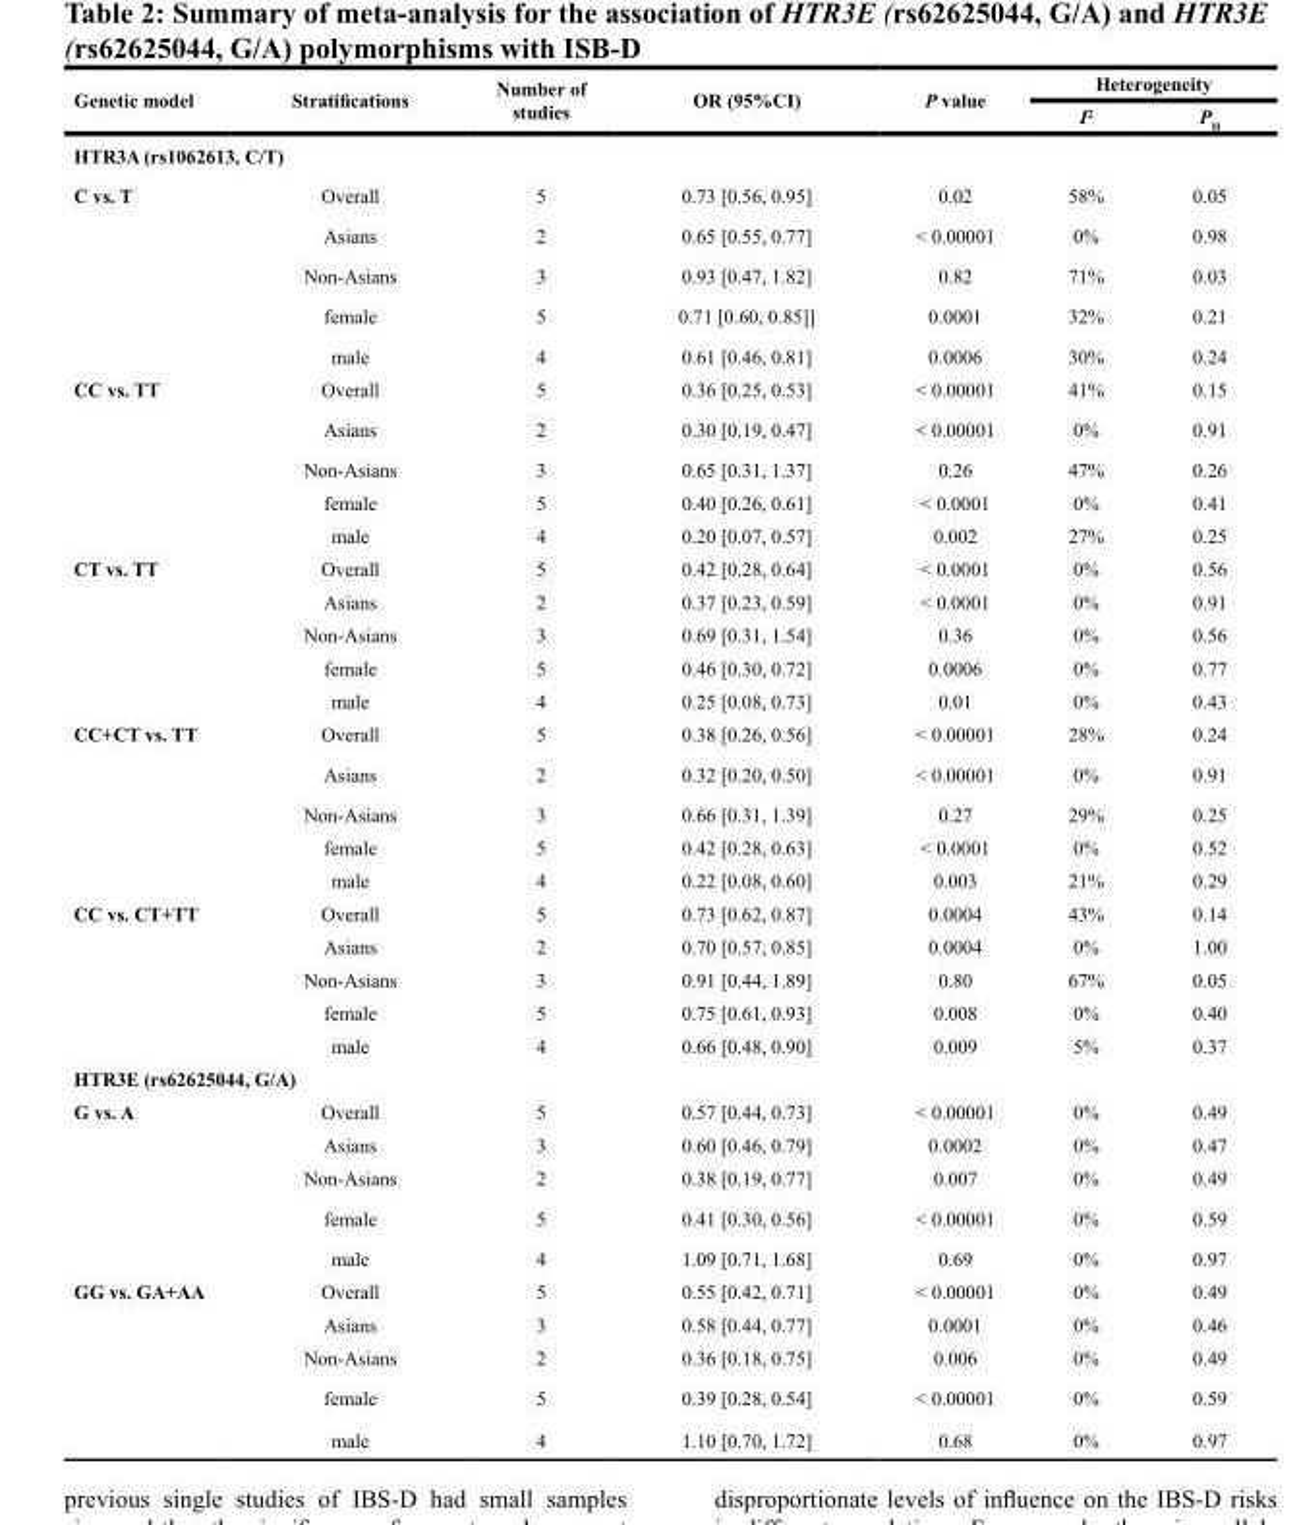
<table><thead><tr><td rowspan="2">Genetic model</td><td rowspan="2">Stratifications</td><td rowspan="2">Number of studies</td><td rowspan="2">OR (95%CI)</td><td rowspan="2">P value</td><td colspan="2">Heterogeneity</td></tr><tr><td>I<sup>2</sup></td><td>P<sub>H</sub></td></tr></thead><tbody><tr><td colspan="7">HTR3A (rs1062613, C/T)</td></tr><tr><td rowspan="5">C vs. T</td><td>Overall</td><td>5</td><td>0.73 [0.56, 0.95]</td><td>0.02</td><td>58%</td><td>0.05</td></tr><tr><td>Asians</td><td>2</td><td>0.65 [0.55, 0.77]</td><td>&lt; 0.00001</td><td>0%</td><td>0.98</td></tr><tr><td>Non-Asians</td><td>3</td><td>0.93 [0.47, 1.82]</td><td>0.82</td><td>71%</td><td>0.03</td></tr><tr><td>female</td><td>5</td><td>0.71 [0.60, 0.85]]</td><td>0.0001</td><td>32%</td><td>0.21</td></tr><tr><td>male</td><td>4</td><td>0.61 [0.46, 0.81]</td><td>0.0006</td><td>30%</td><td>0.24</td></tr><tr><td rowspan="5">CC vs. TT</td><td>Overall</td><td>5</td><td>0.36 [0.25, 0.53]</td><td>&lt; 0.00001</td><td>41%</td><td>0.15</td></tr><tr><td>Asians</td><td>2</td><td>0.30 [0.19, 0.47]</td><td>&lt; 0.00001</td><td>0%</td><td>0.91</td></tr><tr><td>Non-Asians</td><td>3</td><td>0.65 [0.31, 1.37]</td><td>0.26</td><td>47%</td><td>0.26</td></tr><tr><td>female</td><td>5</td><td>0.40 [0.26, 0.61]</td><td>&lt; 0.0001</td><td>0%</td><td>0.41</td></tr><tr><td>male</td><td>4</td><td>0.20 [0.07, 0.57]</td><td>0.002</td><td>27%</td><td>0.25</td></tr><tr><td rowspan="5">CT vs. TT</td><td>Overall</td><td>5</td><td>0.42 [0.28, 0.64]</td><td>&lt; 0.0001</td><td>0%</td><td>0.56</td></tr><tr><td>Asians</td><td>2</td><td>0.37 [0.23, 0.59]</td><td>&lt; 0.0001</td><td>0%</td><td>0.91</td></tr><tr><td>Non-Asians</td><td>3</td><td>0.69 [0.31, 1.54]</td><td>0.36</td><td>0%</td><td>0.56</td></tr><tr><td>female</td><td>5</td><td>0.46 [0.30, 0.72]</td><td>0.0006</td><td>0%</td><td>0.77</td></tr><tr><td>male</td><td>4</td><td>0.25 [0.08, 0.73]</td><td>0.01</td><td>0%</td><td>0.43</td></tr><tr><td rowspan="5">CC+CT vs. TT</td><td>Overall</td><td>5</td><td>0.38 [0.26, 0.56]</td><td>&lt; 0.00001</td><td>28%</td><td>0.24</td></tr><tr><td>Asians</td><td>2</td><td>0.32 [0.20, 0.50]</td><td>&lt; 0.00001</td><td>0%</td><td>0.91</td></tr><tr><td>Non-Asians</td><td>3</td><td>0.66 [0.31, 1.39]</td><td>0.27</td><td>29%</td><td>0.25</td></tr><tr><td>female</td><td>5</td><td>0.42 [0.28, 0.63]</td><td>&lt; 0.0001</td><td>0%</td><td>0.52</td></tr><tr><td>male</td><td>4</td><td>0.22 [0.08, 0.60]</td><td>0.003</td><td>21%</td><td>0.29</td></tr><tr><td rowspan="5">CC vs. CT+TT</td><td>Overall</td><td>5</td><td>0.73 [0.62, 0.87]</td><td>0.0004</td><td>43%</td><td>0.14</td></tr><tr><td>Asians</td><td>2</td><td>0.70 [0.57, 0.85]</td><td>0.0004</td><td>0%</td><td>1.00</td></tr><tr><td>Non-Asians</td><td>3</td><td>0.91 [0.44, 1.89]</td><td>0.80</td><td>67%</td><td>0.05</td></tr><tr><td>female</td><td>5</td><td>0.75 [0.61, 0.93]</td><td>0.008</td><td>0%</td><td>0.40</td></tr><tr><td>male</td><td>4</td><td>0.66 [0.48, 0.90]</td><td>0.009</td><td>5%</td><td>0.37</td></tr><tr><td colspan="7">HTR3E (rs62625044, G/A)</td></tr><tr><td rowspan="5">G vs. A</td><td>Overall</td><td>5</td><td>0.57 [0.44, 0.73]</td><td>&lt; 0.00001</td><td>0%</td><td>0.49</td></tr><tr><td>Asians</td><td>3</td><td>0.60 [0.46, 0.79]</td><td>0.0002</td><td>0%</td><td>0.47</td></tr><tr><td>Non-Asians</td><td>2</td><td>0.38 [0.19, 0.77]</td><td>0.007</td><td>0%</td><td>0.49</td></tr><tr><td>female</td><td>5</td><td>0.41 [0.30, 0.56]</td><td>&lt; 0.00001</td><td>0%</td><td>0.59</td></tr><tr><td>male</td><td>4</td><td>1.09 [0.71, 1.68]</td><td>0.69</td><td>0%</td><td>0.97</td></tr><tr><td rowspan="5">GG vs. GA+AA</td><td>Overall</td><td>5</td><td>0.55 [0.42, 0.71]</td><td>&lt; 0.00001</td><td>0%</td><td>0.49</td></tr><tr><td>Asians</td><td>3</td><td>0.58 [0.44, 0.77]</td><td>0.0001</td><td>0%</td><td>0.46</td></tr><tr><td>Non-Asians</td><td>2</td><td>0.36 [0.18, 0.75]</td><td>0.006</td><td>0%</td><td>0.49</td></tr><tr><td>female</td><td>5</td><td>0.39 [0.28, 0.54]</td><td>&lt; 0.00001</td><td>0%</td><td>0.59</td></tr><tr><td>male</td><td>4</td><td>1.10 [0.70, 1.72]</td><td>0.68</td><td>0%</td><td>0.97</td></tr></tbody></table>